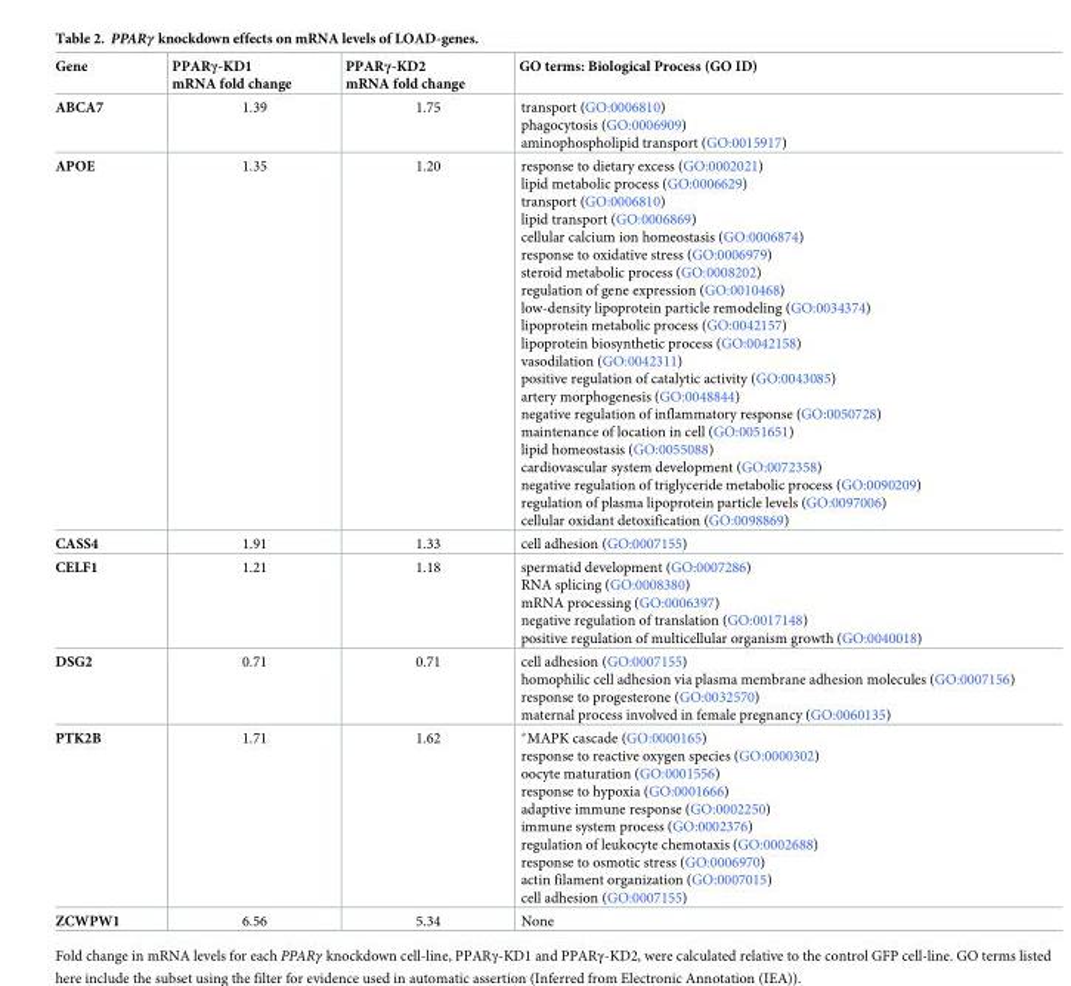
<table><thead><tr><td>Gene</td><td>PPARγ-KD1 mRNA fold change</td><td>PPARγ-KD2 mRNA fold change</td><td>GO terms: Biological Process (GO ID)</td></tr></thead><tbody><tr><td>ABCA7</td><td>1.39</td><td>1.75</td><td>transport (GO:0006810) phagocytosis (GO:0006909) aminophospholipid transport (GO:0015917)</td></tr><tr><td>APOE</td><td>1.35</td><td>1.20</td><td>response to dietary excess (GO:0002021) lipid metabolic process (GO:0006629) transport (GO:0006810) lipid transport (GO:0006869) cellular calcium ion homeostasis (GO:0006874) response to oxidative stress (GO:0006979) steroid metabolic process (GO:0008202) regulation of gene expression (GO:0010468) low-density lipoprotein particle remodeling (GO:0034374) lipoprotein metabolic process (GO:0042157) lipoprotein biosynthetic process (GO:0042158) vasodilation (GO:0042311) positive regulation of catalytic activity (GO:0043085) artery morphogenesis (GO:0048844) negative regulation of inflammatory response (GO:0050728) maintenance of location in cell (GO:0051651) lipid homeostasis (GO:0055088) cardiovascular system development (GO:0072358) negative regulation of triglyceride metabolic process (GO:0090209) regulation of plasma lipoprotein particle levels (GO:0097006) cellular oxidant detoxification (GO:0098869)</td></tr><tr><td>CASS4</td><td>1.91</td><td>1.33</td><td>cell adhesion (GO:0007155)</td></tr><tr><td>CELF1</td><td>1.21</td><td>1.18</td><td>spermatid development (GO:0007286) RNA splicing (GO:0008380) mRNA processing (GO:0006397) negative regulation of translation (GO:0017148) positive regulation of multicellular organism growth (GO:0040018)</td></tr><tr><td>DSG2</td><td>0.71</td><td>0.71</td><td>cell adhesion (GO:0007155) homophilic cell adhesion via plasma membrane adhesion molecules (GO:0007156) response to progesterone (GO:0032570) maternal process involved in female pregnancy (GO:0060135)</td></tr><tr><td>PTK2B</td><td>1.71</td><td>1.62</td><td>*MAPK cascade (GO:0000165) response to reactive oxygen species (GO:0000302) oocyte maturation (GO:0001556) response to hypoxia (GO:0001666) adaptive immune response (GO:0002250) immune system process (GO:0002376) regulation of leukocyte chemotaxis (GO:0002688) response to osmotic stress (GO:0006970) actin filament organization (GO:0007015) cell adhesion (GO:0007155)</td></tr><tr><td>ZCWPW1</td><td>6.56</td><td>5.34</td><td>None</td></tr></tbody></table>